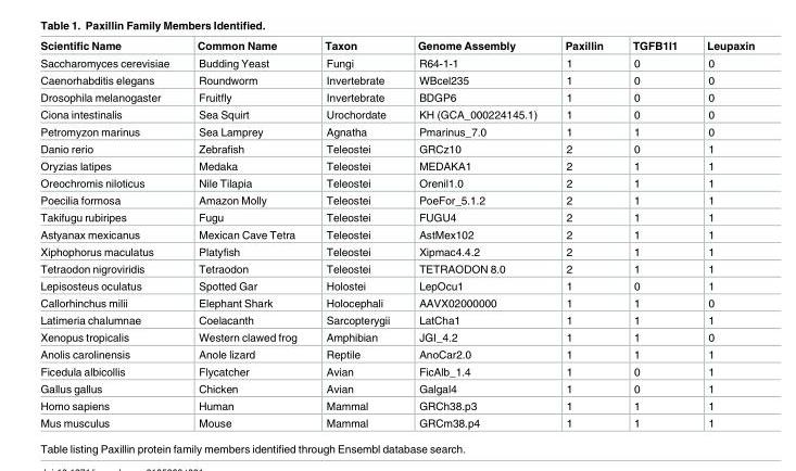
<table><thead><tr><td>Scientific Name</td><td>Common Name</td><td>Taxon</td><td>Genome Assembly</td><td>Paxillin</td><td>TGFB1I1</td><td>Leupaxin</td></tr></thead><tbody><tr><td>Saccharomyces cerevisiae</td><td>Budding Yeast</td><td>Fungi</td><td>R64-1-1</td><td>1</td><td>0</td><td>0</td></tr><tr><td>Caenorhabditis elegans</td><td>Roundworm</td><td>Invertebrate</td><td>WBcel235</td><td>1</td><td>0</td><td>0</td></tr><tr><td>Drosophila melanogaster</td><td>Fruitfly</td><td>Invertebrate</td><td>BDGP6</td><td>1</td><td>0</td><td>0</td></tr><tr><td>Ciona intestinalis</td><td>Sea Squirt</td><td>Urochordate</td><td>KH (GCA_000224145.1)</td><td>1</td><td>0</td><td>0</td></tr><tr><td>Petromyzon marinus</td><td>Sea Lamprey</td><td>Agnatha</td><td>Pmarinus_7.0</td><td>1</td><td>1</td><td>0</td></tr><tr><td>Danio rerio</td><td>Zebrafish</td><td>Teleostei</td><td>GRCz10</td><td>2</td><td>0</td><td>1</td></tr><tr><td>Oryzias latipes</td><td>Medaka</td><td>Teleostei</td><td>MEDAKA1</td><td>2</td><td>1</td><td>1</td></tr><tr><td>Oreochromis niloticus</td><td>Nile Tilapia</td><td>Teleostei</td><td>Orenil1.0</td><td>2</td><td>1</td><td>1</td></tr><tr><td>Poecilia formosa</td><td>Amazon Molly</td><td>Teleostei</td><td>PoeFor_5.1.2</td><td>2</td><td>1</td><td>1</td></tr><tr><td>Takifugu rubiripes</td><td>Fugu</td><td>Teleostei</td><td>FUGU4</td><td>2</td><td>1</td><td>1</td></tr><tr><td>Astyanax mexicanus</td><td>Mexican Cave Tetra</td><td>Teleostei</td><td>AstMex102</td><td>2</td><td>1</td><td>1</td></tr><tr><td>Xiphophorus maculatus</td><td>Platyfish</td><td>Teleostei</td><td>Xipmac4.4.2</td><td>2</td><td>1</td><td>1</td></tr><tr><td>Tetraodon nigroviridis</td><td>Tetraodon</td><td>Teleostei</td><td>TETRAODON 8.0</td><td>2</td><td>1</td><td>1</td></tr><tr><td>Lepisosteus oculatus</td><td>Spotted Gar</td><td>Holostei</td><td>LepOcu1</td><td>1</td><td>0</td><td>1</td></tr><tr><td>Callorhinchus milii</td><td>Elephant Shark</td><td>Holocephali</td><td>AAVX02000000</td><td>1</td><td>1</td><td>0</td></tr><tr><td>Latimeria chalumnae</td><td>Coelacanth</td><td>Sarcopterygii</td><td>LatCha1</td><td>1</td><td>1</td><td>1</td></tr><tr><td>Xenopus tropicalis</td><td>Western clawed frog</td><td>Amphibian</td><td>JGI_4.2</td><td>1</td><td>1</td><td>0</td></tr><tr><td>Anolis carolinensis</td><td>Anole lizard</td><td>Reptile</td><td>AnoCar2.0</td><td>1</td><td>1</td><td>1</td></tr><tr><td>Ficedula albicollis</td><td>Flycatcher</td><td>Avian</td><td>FicAlb_1.4</td><td>1</td><td>0</td><td>1</td></tr><tr><td>Gallus gallus</td><td>Chicken</td><td>Avian</td><td>Galgal4</td><td>1</td><td>0</td><td>1</td></tr><tr><td>Homo sapiens</td><td>Human</td><td>Mammal</td><td>GRCh38.p3</td><td>1</td><td>1</td><td>1</td></tr><tr><td>Mus musculus</td><td>Mouse</td><td>Mammal</td><td>GRCm38.p4</td><td>1</td><td>1</td><td>1</td></tr></tbody></table>